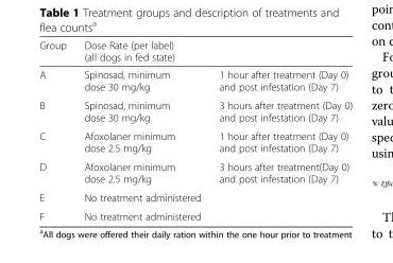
<table><thead><tr><td>Group</td><td>Dose Rate (per label) (all dogs in fed state)</td><td></td></tr></thead><tbody><tr><td>A</td><td>Spinosad, minimum dose 30 mg/kg</td><td>1 hour after treatment (Day 0) and post infestation (Day 7)</td></tr><tr><td>B</td><td>Spinosad, minimum dose 30 mg/kg</td><td>3 hours after treatment (Day 0) and post infestation (Day 7)</td></tr><tr><td>C</td><td>Afoxolaner minimum dose 2.5 mg/kg</td><td>1 hour after treatment (Day 0) and post infestation (Day 7)</td></tr><tr><td>D</td><td>Afoxolaner minimum dose 2.5 mg/kg</td><td>3 hours after treatment(Day 0) and post infestation (Day 7)</td></tr><tr><td>E</td><td>No treatment administered</td><td></td></tr><tr><td>F</td><td>No treatment administered</td><td></td></tr></tbody></table>